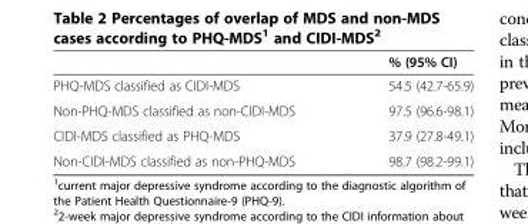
<table><thead><tr><td></td><td>% (95% CI)</td></tr></thead><tbody><tr><td>PHQ-MDS classified as CIDI-MDS</td><td>54.5 (42.7-65.9)</td></tr><tr><td>Non-PHQ-MDS classified as non-CIDI-MDS</td><td>97.5 (96.6-98.1)</td></tr><tr><td>CIDI-MDS classified as PHQ-MDS</td><td>37.9 (27.8-49.1)</td></tr><tr><td>Non-CIDI-MDS classified as non-PHQ-MDS</td><td>98.7 (98.2-99.1)</td></tr></tbody></table>